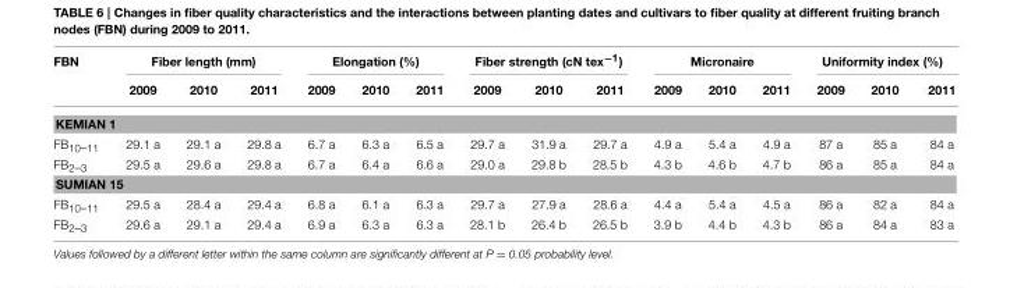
<table><thead><tr><td rowspan="2">FBN</td><td colspan="3">Fiber length (mm)</td><td colspan="3">Elongation (%)</td><td colspan="3">Fiber strength (cN tex<sup>−1</sup>)</td><td colspan="3">Micronaire</td><td colspan="3">Uniformity index (%)</td></tr><tr><td>2009</td><td>2010</td><td>2011</td><td>2009</td><td>2010</td><td>2011</td><td>2009</td><td>2010</td><td>2011</td><td>2009</td><td>2010</td><td>2011</td><td>2009</td><td>2010</td><td>2011</td></tr></thead><tbody><tr><td colspan="16">KEMIAN 1</td></tr><tr><td>FB<sub>10–11</sub></td><td>29.1 a</td><td>29.1 a</td><td>29.8 a</td><td>6.7 a</td><td>6.3 a</td><td>6.5 a</td><td>29.7 a</td><td>31.9 a</td><td>29.7 a</td><td>4.9 a</td><td>5.4 a</td><td>4.9 a</td><td>87 a</td><td>85 a</td><td>84 a</td></tr><tr><td>FB<sub>2–3</sub></td><td>29.5 a</td><td>29.6 a</td><td>29.8 a</td><td>6.7 a</td><td>6.4 a</td><td>6.6 a</td><td>29.0 a</td><td>29.8 b</td><td>28.5 b</td><td>4.3 b</td><td>4.6 b</td><td>4.7 b</td><td>86 a</td><td>85 a</td><td>84 a</td></tr><tr><td colspan="16">SUMIAN 15</td></tr><tr><td>FB<sub>10–11</sub></td><td>29.5 a</td><td>28.4 a</td><td>29.4 a</td><td>6.8 a</td><td>6.1 a</td><td>6.3 a</td><td>29.7 a</td><td>27.9 a</td><td>28.6 a</td><td>4.4 a</td><td>5.4 a</td><td>4.5 a</td><td>86 a</td><td>82 a</td><td>84 a</td></tr><tr><td>FB<sub>2–3</sub></td><td>29.6 a</td><td>29.1 a</td><td>29.4 a</td><td>6.9 a</td><td>6.3 a</td><td>6.3 a</td><td>28.1 b</td><td>26.4 b</td><td>26.5 b</td><td>3.9 b</td><td>4.4 b</td><td>4.3 b</td><td>86 a</td><td>84 a</td><td>83 a</td></tr></tbody></table>